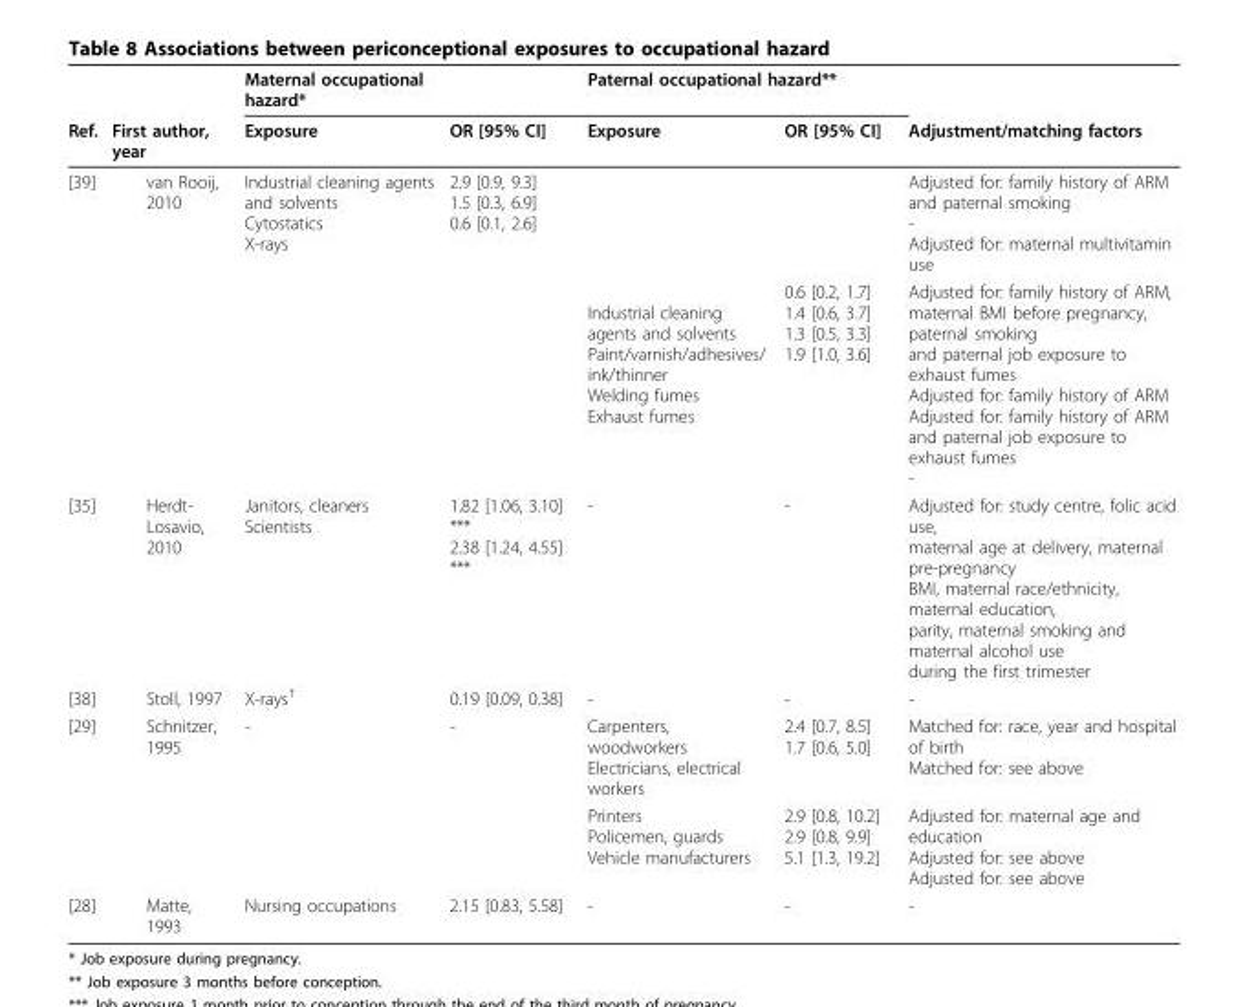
<table><thead><tr><td rowspan="2">Ref.</td><td rowspan="2">First author, year</td><td rowspan="2">Maternal occupational hazard* Exposure</td><td rowspan="2">OR [95% CI]</td><td colspan="2">Paternal occupational hazard**</td><td rowspan="2">Adjustment/matching factors</td></tr><tr><td>Exposure</td><td>OR [95% CI]</td></tr></thead><tbody><tr><td rowspan="2">[39]</td><td>van Rooij, 2010</td><td>Industrial cleaning agents and solvents Cytostatics X-rays</td><td>2.9 [0.9, 9.3] 1.5 [0.3, 6.9] 0.6 [0.1, 2.6]</td><td></td><td></td><td>Adjusted for: family history of ARM and paternal smoking - Adjusted for: maternal multivitamin use</td></tr><tr><td></td><td></td><td></td><td>Industrial cleaning agents and solvents Paint/varnish/adhesives/ ink/thinner Welding fumes Exhaust fumes</td><td>0.6 [0.2, 1.7] 1.4 [0.6, 3.7] 1.3 [0.5, 3.3] 1.9 [1.0, 3.6]</td><td>Adjusted for: family history of ARM, maternal BMI before pregnancy, paternal smoking and paternal job exposure to exhaust fumes Adjusted for: family history of ARM Adjusted for: family history of ARM and paternal job exposure to exhaust fumes -</td></tr><tr><td>[35]</td><td>Herdt- Losavio, 2010</td><td>Janitors, cleaners Scientists</td><td>1.82 [1.06, 3.10] *** 2.38 [1.24, 4.55] ***</td><td>-</td><td>-</td><td>Adjusted for: study centre, folic acid use, maternal age at delivery, maternal pre-pregnancy BMI, maternal race/ethnicity, maternal education, parity, maternal smoking and maternal alcohol use during the first trimester</td></tr><tr><td>[38]</td><td>Stoll, 1997</td><td>X-rays<sup>†</sup></td><td>0.19 [0.09, 0.38]</td><td>-</td><td>-</td><td>-</td></tr><tr><td rowspan="2">[29]</td><td>Schnitzer, 1995</td><td>-</td><td>-</td><td>Carpenters, woodworkers Electricians, electrical workers</td><td>2.4 [0.7, 8.5] 1.7 [0.6, 5.0]</td><td>Matched for: race, year and hospital of birth Matched for: see above</td></tr><tr><td></td><td></td><td></td><td>Printers Policemen, guards Vehicle manufacturers</td><td>2.9 [0.8, 10.2] 2.9 [0.8, 9.9] 5.1 [1.3, 19.2]</td><td>Adjusted for: maternal age and education Adjusted for: see above Adjusted for: see above</td></tr><tr><td>[28]</td><td>Matte, 1993</td><td>Nursing occupations</td><td>2.15 [0.83, 5.58]</td><td>-</td><td>-</td><td>-</td></tr></tbody></table>